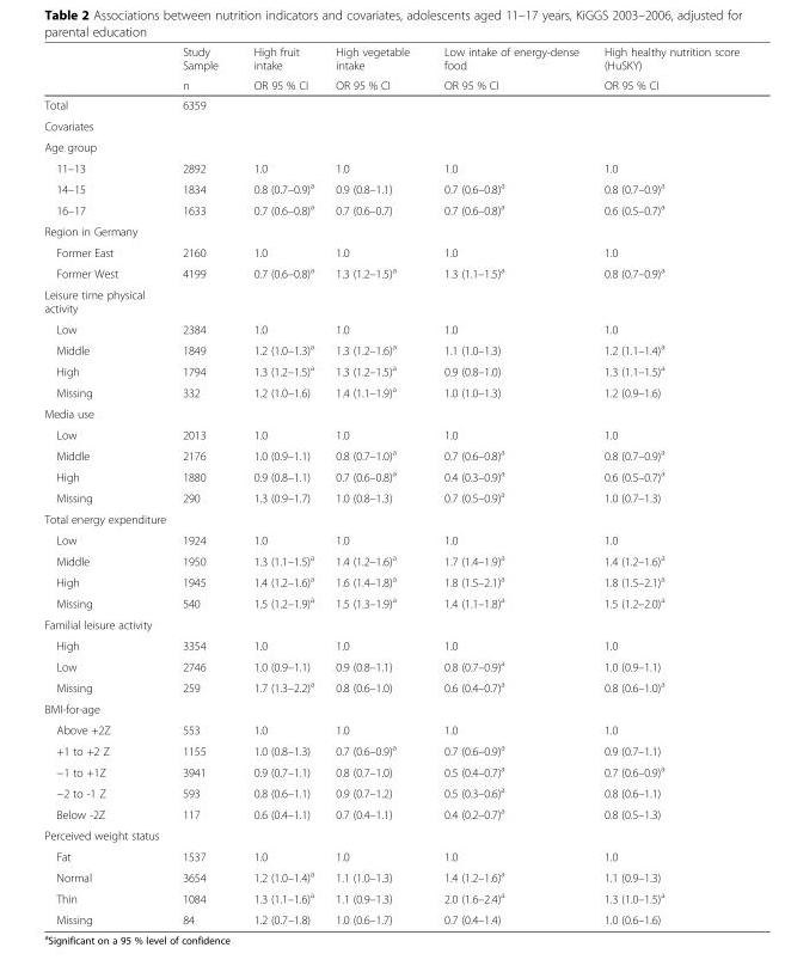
<table><thead><tr><td rowspan="2"></td><td rowspan="2">Study Sample n</td><td rowspan="2">High fruit intake OR 95 % CI</td><td rowspan="2">High vegetable intake OR 95 % CI</td><td rowspan="2">Low intake of energy-dense food OR 95 % CI</td><td rowspan="2">High healthy nutrition score (HuSKY) OR 95 % CI</td></tr><tr></tr></thead><tbody><tr><td>Total</td><td>6359</td><td></td><td></td><td></td><td></td></tr><tr><td colspan="6">Covariates</td></tr><tr><td colspan="6">Age group</td></tr><tr><td>11–13</td><td>2892</td><td>1.0</td><td>1.0</td><td>1.0</td><td>1.0</td></tr><tr><td>14–15</td><td>1834</td><td>0.8 (0.7–0.9)<sup>a</sup></td><td>0.9 (0.8–1.1)</td><td>0.7 (0.6–0.8)<sup>a</sup></td><td>0.8 (0.7–0.9)<sup>a</sup></td></tr><tr><td>16–17</td><td>1633</td><td>0.7 (0.6–0.8)<sup>a</sup></td><td>0.7 (0.6–0.7)</td><td>0.7 (0.6–0.8)<sup>a</sup></td><td>0.6 (0.5–0.7)<sup>a</sup></td></tr><tr><td colspan="6">Region in Germany</td></tr><tr><td>Former East</td><td>2160</td><td>1.0</td><td>1.0</td><td>1.0</td><td>1.0</td></tr><tr><td>Former West</td><td>4199</td><td>0.7 (0.6–0.8)<sup>a</sup></td><td>1.3 (1.2–1.5)<sup>a</sup></td><td>1.3 (1.1–1.5)<sup>a</sup></td><td>0.8 (0.7–0.9)<sup>a</sup></td></tr><tr><td colspan="6">Leisure time physical activity</td></tr><tr><td>Low</td><td>2384</td><td>1.0</td><td>1.0</td><td>1.0</td><td>1.0</td></tr><tr><td>Middle</td><td>1849</td><td>1.2 (1.0–1.3)<sup>a</sup></td><td>1.3 (1.2–1.6)<sup>a</sup></td><td>1.1 (1.0–1.3)</td><td>1.2 (1.1–1.4)<sup>a</sup></td></tr><tr><td>High</td><td>1794</td><td>1.3 (1.2–1.5)<sup>a</sup></td><td>1.3 (1.2–1.5)<sup>a</sup></td><td>0.9 (0.8–1.0)</td><td>1.3 (1.1–1.5)<sup>a</sup></td></tr><tr><td>Missing</td><td>332</td><td>1.2 (1.0–1.6)</td><td>1.4 (1.1–1.9)<sup>a</sup></td><td>1.0 (1.0–1.3)</td><td>1.2 (0.9–1.6)</td></tr><tr><td colspan="6">Media use</td></tr><tr><td>Low</td><td>2013</td><td>1.0</td><td>1.0</td><td>1.0</td><td>1.0</td></tr><tr><td>Middle</td><td>2176</td><td>1.0 (0.9–1.1)</td><td>0.8 (0.7–1.0)<sup>a</sup></td><td>0.7 (0.6–0.8)<sup>a</sup></td><td>0.8 (0.7–0.9)<sup>a</sup></td></tr><tr><td>High</td><td>1880</td><td>0.9 (0.8–1.1)</td><td>0.7 (0.6–0.8)<sup>a</sup></td><td>0.4 (0.3–0.9)<sup>a</sup></td><td>0.6 (0.5–0.7)<sup>a</sup></td></tr><tr><td>Missing</td><td>290</td><td>1.3 (0.9–1.7)</td><td>1.0 (0.8–1.3)</td><td>0.7 (0.5–0.9)<sup>a</sup></td><td>1.0 (0.7–1.3)</td></tr><tr><td colspan="6">Total energy expenditure</td></tr><tr><td>Low</td><td>1924</td><td>1.0</td><td>1.0</td><td>1.0</td><td>1.0</td></tr><tr><td>Middle</td><td>1950</td><td>1.3 (1.1–1.5)<sup>a</sup></td><td>1.4 (1.2–1.6)<sup>a</sup></td><td>1.7 (1.4–1.9)<sup>a</sup></td><td>1.4 (1.2–1.6)<sup>a</sup></td></tr><tr><td>High</td><td>1945</td><td>1.4 (1.2–1.6)<sup>a</sup></td><td>1.6 (1.4–1.8)<sup>a</sup></td><td>1.8 (1.5–2.1)<sup>a</sup></td><td>1.8 (1.5–2.1)<sup>a</sup></td></tr><tr><td>Missing</td><td>540</td><td>1.5 (1.2–1.9)<sup>a</sup></td><td>1.5 (1.3–1.9)<sup>a</sup></td><td>1.4 (1.1–1.8)<sup>a</sup></td><td>1.5 (1.2–2.0)<sup>a</sup></td></tr><tr><td colspan="6">Familial leisure activity</td></tr><tr><td>High</td><td>3354</td><td>1.0</td><td>1.0</td><td>1.0</td><td>1.0</td></tr><tr><td>Low</td><td>2746</td><td>1.0 (0.9–1.1)</td><td>0.9 (0.8–1.1)</td><td>0.8 (0.7–0.9)<sup>a</sup></td><td>1.0 (0.9–1.1)</td></tr><tr><td>Missing</td><td>259</td><td>1.7 (1.3–2.2)<sup>a</sup></td><td>0.8 (0.6–1.0)</td><td>0.6 (0.4–0.7)<sup>a</sup></td><td>0.8 (0.6–1.0)<sup>a</sup></td></tr><tr><td colspan="6">BMI-for-age</td></tr><tr><td>Above +2Z</td><td>553</td><td>1.0</td><td>1.0</td><td>1.0</td><td>1.0</td></tr><tr><td>+1 to +2 Z</td><td>1155</td><td>1.0 (0.8–1.3)</td><td>0.7 (0.6–0.9)<sup>a</sup></td><td>0.7 (0.6–0.9)<sup>a</sup></td><td>0.9 (0.7–1.1)</td></tr><tr><td>−1 to +1Z</td><td>3941</td><td>0.9 (0.7–1.1)</td><td>0.8 (0.7–1.0)</td><td>0.5 (0.4–0.7)<sup>a</sup></td><td>0.7 (0.6–0.9)<sup>a</sup></td></tr><tr><td>−2 to -1 Z</td><td>593</td><td>0.8 (0.6–1.1)</td><td>0.9 (0.7–1.2)</td><td>0.5 (0.3–0.6)<sup>a</sup></td><td>0.8 (0.6–1.1)</td></tr><tr><td>Below -2Z</td><td>117</td><td>0.6 (0.4–1.1)</td><td>0.7 (0.4–1.1)</td><td>0.4 (0.2–0.7)<sup>a</sup></td><td>0.8 (0.5–1.3)</td></tr><tr><td colspan="6">Perceived weight status</td></tr><tr><td>Fat</td><td>1537</td><td>1.0</td><td>1.0</td><td>1.0</td><td>1.0</td></tr><tr><td>Normal</td><td>3654</td><td>1.2 (1.0–1.4)<sup>a</sup></td><td>1.1 (1.0–1.3)</td><td>1.4 (1.2–1.6)<sup>a</sup></td><td>1.1 (0.9–1.3)</td></tr><tr><td>Thin</td><td>1084</td><td>1.3 (1.1–1.6)<sup>a</sup></td><td>1.1 (0.9–1.3)</td><td>2.0 (1.6–2.4)<sup>a</sup></td><td>1.3 (1.0–1.5)<sup>a</sup></td></tr><tr><td>Missing</td><td>84</td><td>1.2 (0.7–1.8)</td><td>1.0 (0.6–1.7)</td><td>0.7 (0.4–1.4)</td><td>1.0 (0.6–1.6)</td></tr></tbody></table>